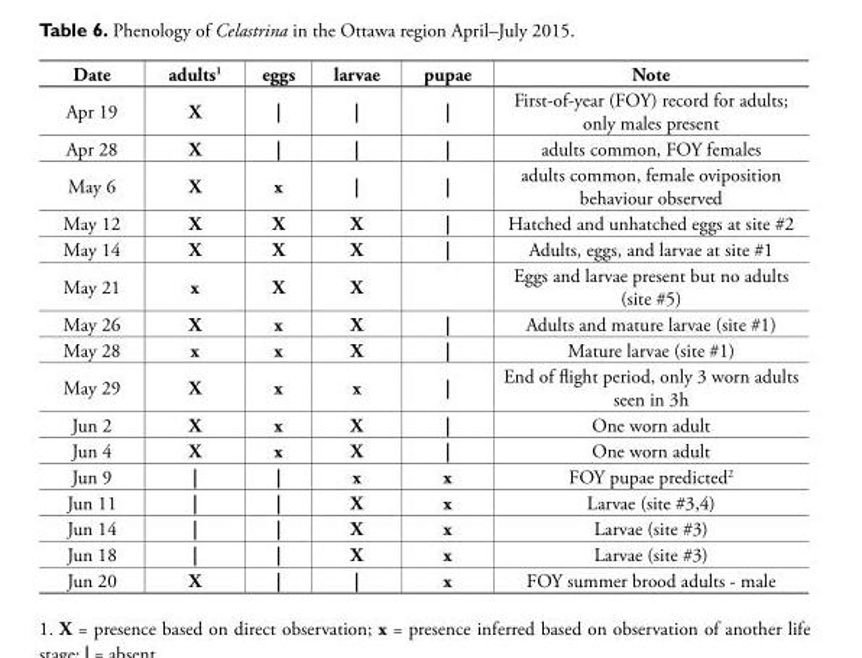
<table><tbody><tr><td>Date</td><td>adults<sup>1</sup></td><td>eggs</td><td>larvae</td><td>pupae</td><td>Note</td></tr><tr><td>Apr 19</td><td>X</td><td>|</td><td>|</td><td>|</td><td>First-of-year (FOY) record for adults; only males present</td></tr><tr><td>Apr 28</td><td>X</td><td>|</td><td>|</td><td>|</td><td>adults common, FOY females</td></tr><tr><td>May 6</td><td>X</td><td>x</td><td>|</td><td>|</td><td>adults common, female oviposition behaviour observed</td></tr><tr><td>May 12</td><td>X</td><td>X</td><td>X</td><td>|</td><td>Hatched and unhatched eggs at site #2</td></tr><tr><td>May 14</td><td>X</td><td>X</td><td>X</td><td>|</td><td>Adults, eggs, and larvae at site #1</td></tr><tr><td>May 21</td><td>x</td><td>X</td><td>X</td><td></td><td>Eggs and larvae present but no adults (site #5)</td></tr><tr><td>May 26</td><td>X</td><td>x</td><td>X</td><td>|</td><td>Adults and mature larvae (site #1)</td></tr><tr><td>May 28</td><td>x</td><td>x</td><td>X</td><td>|</td><td>Mature larvae (site #1)</td></tr><tr><td>May 29</td><td>X</td><td>x</td><td>x</td><td>|</td><td>End of flight period, only 3 worn adults seen in 3h</td></tr><tr><td>Jun 2</td><td>X</td><td>x</td><td>X</td><td>|</td><td>One worn adult</td></tr><tr><td>Jun 4</td><td>X</td><td>x</td><td>X</td><td>|</td><td>One worn adult</td></tr><tr><td>Jun 9</td><td>|</td><td>|</td><td>x</td><td>x</td><td>FOY pupae predicted<sup>2</sup></td></tr><tr><td>Jun 11</td><td>|</td><td>|</td><td>X</td><td>x</td><td>Larvae (site #3,4)</td></tr><tr><td>Jun 14</td><td>|</td><td>|</td><td>X</td><td>x</td><td>Larvae (site #3)</td></tr><tr><td>Jun 18</td><td>|</td><td>|</td><td>X</td><td>x</td><td>Larvae (site #3)</td></tr><tr><td>Jun 20</td><td>X</td><td>|</td><td>|</td><td>x</td><td>FOY summer brood adults - male</td></tr></tbody></table>